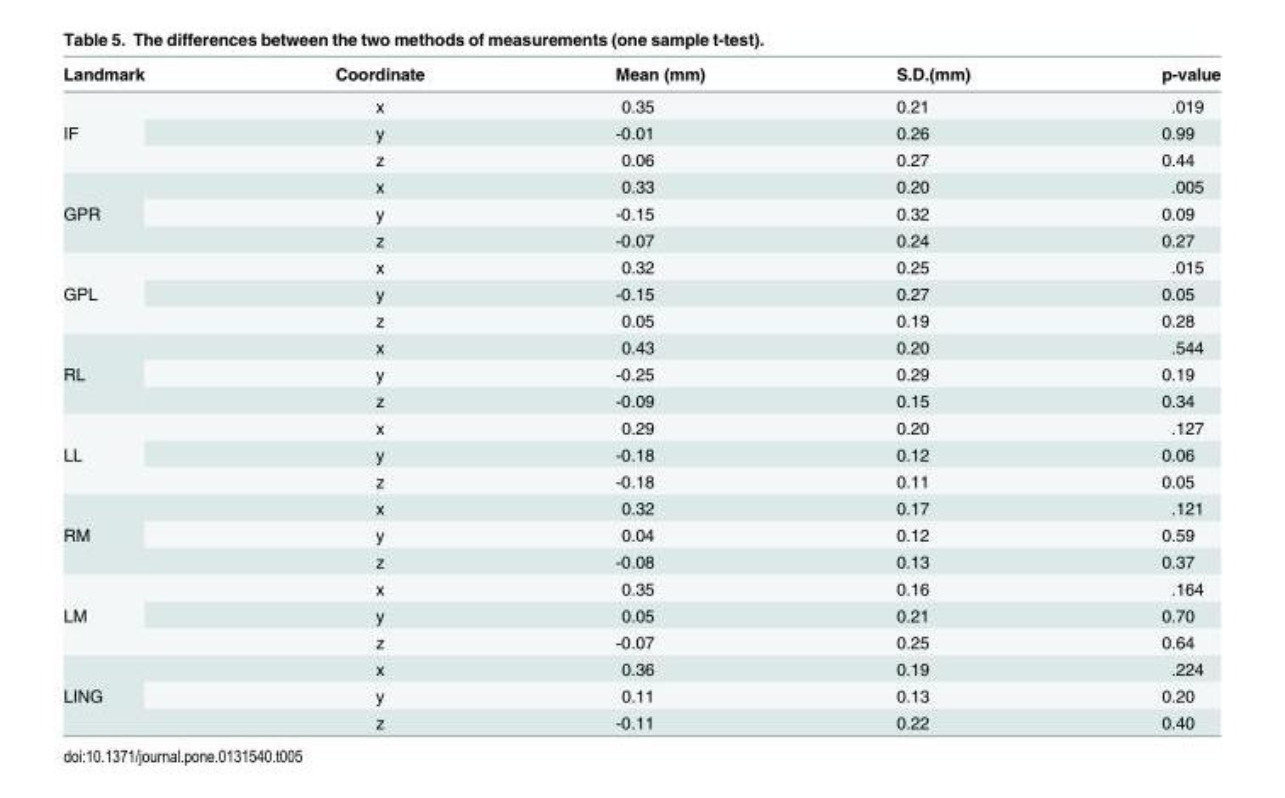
<table><thead><tr><td>Landmark</td><td>Coordinate</td><td>Mean (mm)</td><td>S.D.(mm)</td><td>p-value</td></tr></thead><tbody><tr><td rowspan="3">IF</td><td>x</td><td>0.35</td><td>0.21</td><td>.019</td></tr><tr><td>y</td><td>-0.01</td><td>0.26</td><td>0.99</td></tr><tr><td>z</td><td>0.06</td><td>0.27</td><td>0.44</td></tr><tr><td rowspan="3">GPR</td><td>x</td><td>0.33</td><td>0.20</td><td>.005</td></tr><tr><td>y</td><td>-0.15</td><td>0.32</td><td>0.09</td></tr><tr><td>z</td><td>-0.07</td><td>0.24</td><td>0.27</td></tr><tr><td rowspan="3">GPL</td><td>x</td><td>0.32</td><td>0.25</td><td>.015</td></tr><tr><td>y</td><td>-0.15</td><td>0.27</td><td>0.05</td></tr><tr><td>z</td><td>0.05</td><td>0.19</td><td>0.28</td></tr><tr><td rowspan="3">RL</td><td>x</td><td>0.43</td><td>0.20</td><td>.544</td></tr><tr><td>y</td><td>-0.25</td><td>0.29</td><td>0.19</td></tr><tr><td>z</td><td>-0.09</td><td>0.15</td><td>0.34</td></tr><tr><td rowspan="3">LL</td><td>x</td><td>0.29</td><td>0.20</td><td>.127</td></tr><tr><td>y</td><td>-0.18</td><td>0.12</td><td>0.06</td></tr><tr><td>z</td><td>-0.18</td><td>0.11</td><td>0.05</td></tr><tr><td rowspan="3">RM</td><td>x</td><td>0.32</td><td>0.17</td><td>.121</td></tr><tr><td>y</td><td>0.04</td><td>0.12</td><td>0.59</td></tr><tr><td>z</td><td>-0.08</td><td>0.13</td><td>0.37</td></tr><tr><td rowspan="3">LM</td><td>x</td><td>0.35</td><td>0.16</td><td>.164</td></tr><tr><td>y</td><td>0.05</td><td>0.21</td><td>0.70</td></tr><tr><td>z</td><td>-0.07</td><td>0.25</td><td>0.64</td></tr><tr><td rowspan="3">LING</td><td>x</td><td>0.36</td><td>0.19</td><td>.224</td></tr><tr><td>y</td><td>0.11</td><td>0.13</td><td>0.20</td></tr><tr><td>z</td><td>-0.11</td><td>0.22</td><td>0.40</td></tr></tbody></table>